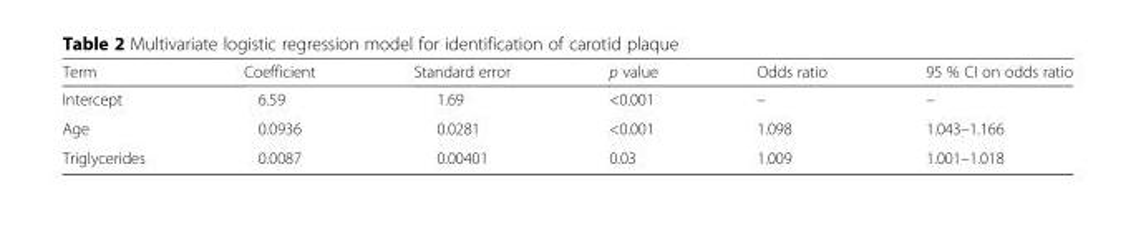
<table><thead><tr><td>Term</td><td>Coefficient</td><td>Standard error</td><td>p value</td><td>Odds ratio</td><td>95 % CI on odds ratio</td></tr></thead><tbody><tr><td>Intercept</td><td>6.59</td><td>1.69</td><td>&lt;0.001</td><td>–</td><td>–</td></tr><tr><td>Age</td><td>0.0936</td><td>0.0281</td><td>&lt;0.001</td><td>1.098</td><td>1.043–1.166</td></tr><tr><td>Triglycerides</td><td>0.0087</td><td>0.00401</td><td>0.03</td><td>1.009</td><td>1.001–1.018</td></tr></tbody></table>